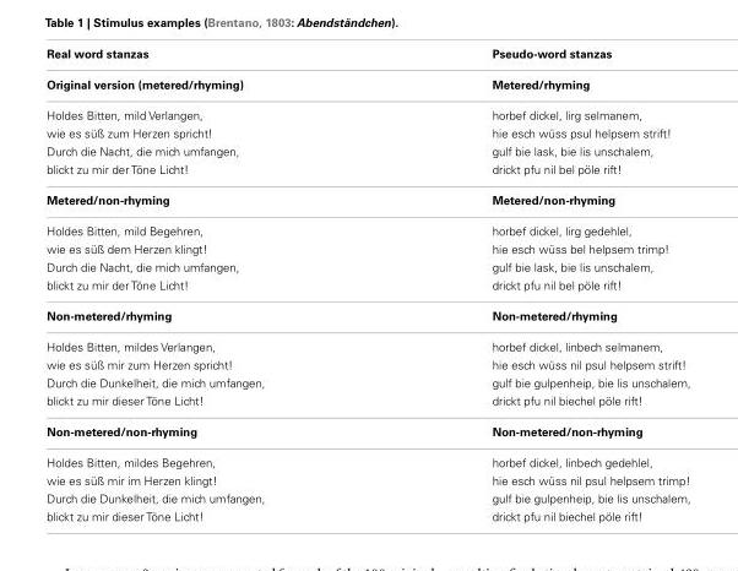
<table><thead><tr><td>Real word stanzas</td><td>Pseudo-word stanzas</td></tr></thead><tbody><tr><td>Original version (metered/rhyming)</td><td>Metered/rhyming</td></tr><tr><td>Holdes Bitten, mild Verlangen,</td><td>horbef dickel, lirg selmanem,</td></tr><tr><td>wie es süß zum Herzen spricht!</td><td>hie esch wüss psul helpsem strift!</td></tr><tr><td>Durch die Nacht, die mich umfangen,</td><td>gulf bie lask, bie lis unschalem,</td></tr><tr><td>blickt zu mir der Töne Licht!</td><td>drickt pfu nil bel pöle rift!</td></tr><tr><td>Metered/non-rhyming</td><td>Metered/non-rhyming</td></tr><tr><td>Holdes Bitten, mild Begehren,</td><td>horbef dickel, lirg gedehlel,</td></tr><tr><td>wie es süß dem Herzen klingt!</td><td>hie esch wüss bel helpsem trimp!</td></tr><tr><td>Durch die Nacht, die mich umfangen,</td><td>gulf bie lask, bie lis unschalem,</td></tr><tr><td>blickt zu mir der Töne Licht!</td><td>drickt pfu nil bel pöle rift!</td></tr><tr><td>Non-metered/rhyming</td><td>Non-metered/rhyming</td></tr><tr><td>Holdes Bitten, mildes Verlangen,</td><td>horbef dickel, linbech selmanem,</td></tr><tr><td>wie es süß mir zum Herzen spricht!</td><td>hie esch wüss nil psul helpsem strift!</td></tr><tr><td>Durch die Dunkelheit, die mich umfangen,</td><td>gulf bie gulpenheip, bie lis unschalem,</td></tr><tr><td>blickt zu mir dieser Töne Licht!</td><td>drickt pfu nil biechel pöle rift!</td></tr><tr><td>Non-metered/non-rhyming</td><td>Non-metered/non-rhyming</td></tr><tr><td>Holdes Bitten, mildes Begehren,</td><td>horbef dickel, linbech gedehlel,</td></tr><tr><td>wie es süß mir im Herzen klingt!</td><td>hie esch wüss nil psul helpsem trimp!</td></tr><tr><td>Durch die Dunkelheit, die mich umfangen,</td><td>gulf bie gulpenheip, bie lis unschalem,</td></tr><tr><td>blickt zu mir dieser Töne Licht!</td><td>drickt pfu nil biechel pöle rift!</td></tr></tbody></table>